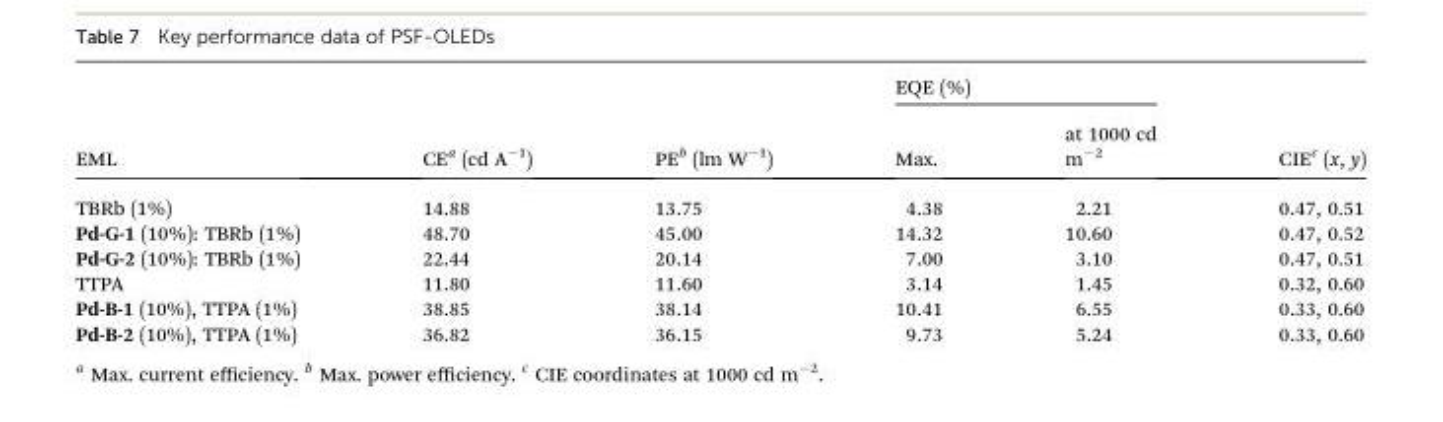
<table><thead><tr><td rowspan="2">EML</td><td rowspan="2">CE<sup>a</sup> (cd A<sup>–1</sup>)</td><td rowspan="2">PE<sup>b</sup> (lm W<sup>–1</sup>)</td><td colspan="2">EQE (%)</td><td rowspan="2">CIE<sup>c</sup> (x, y)</td></tr><tr><td>Max.</td><td>at 1000 cd m<sup>–2</sup></td></tr></thead><tbody><tr><td>TBRb (1%)</td><td>14.88</td><td>13.75</td><td>4.38</td><td>2.21</td><td>0.47, 0.51</td></tr><tr><td>Pd-G-1 (10%): TBRb (1%)</td><td>48.70</td><td>45.00</td><td>14.32</td><td>10.60</td><td>0.47, 0.52</td></tr><tr><td>Pd-G-2 (10%): TBRb (1%)</td><td>22.44</td><td>20.14</td><td>7.00</td><td>3.10</td><td>0.47, 0.51</td></tr><tr><td>TTPA</td><td>11.80</td><td>11.60</td><td>3.14</td><td>1.45</td><td>0.32, 0.60</td></tr><tr><td>Pd-B-1 (10%), TTPA (1%)</td><td>38.85</td><td>38.14</td><td>10.41</td><td>6.55</td><td>0.33, 0.60</td></tr><tr><td>Pd-B-2 (10%), TTPA (1%)</td><td>36.82</td><td>36.15</td><td>9.73</td><td>5.24</td><td>0.33, 0.60</td></tr></tbody></table>